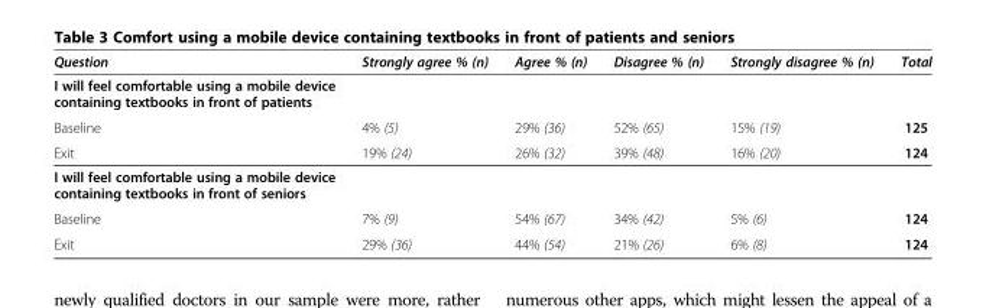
<table><thead><tr><td>Question</td><td>Strongly agree % (n)</td><td>Agree % (n)</td><td>Disagree % (n)</td><td>Strongly disagree % (n)</td><td>Total</td></tr></thead><tbody><tr><td colspan="6">I will feel comfortable using a mobile device containing textbooks in front of patients</td></tr><tr><td>Baseline</td><td>4% (5)</td><td>29% (36)</td><td>52% (65)</td><td>15% (19)</td><td>125</td></tr><tr><td>Exit</td><td>19% (24)</td><td>26% (32)</td><td>39% (48)</td><td>16% (20)</td><td>124</td></tr><tr><td colspan="6">I will feel comfortable using a mobile device containing textbooks in front of seniors</td></tr><tr><td>Baseline</td><td>7% (9)</td><td>54% (67)</td><td>34% (42)</td><td>5% (6)</td><td>124</td></tr><tr><td>Exit</td><td>29% (36)</td><td>44% (54)</td><td>21% (26)</td><td>6% (8)</td><td>124</td></tr></tbody></table>